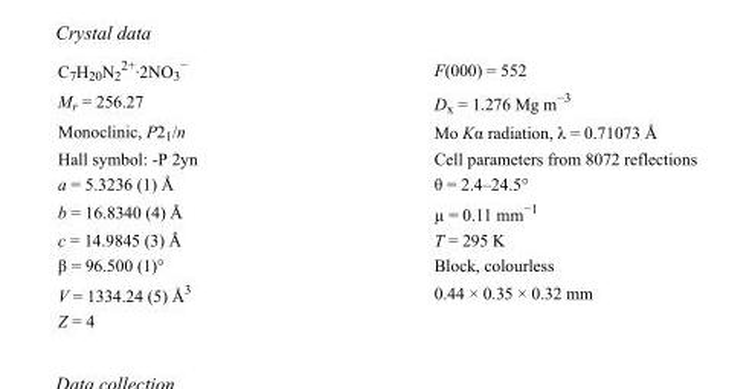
<table><tbody><tr><td>C<sub>7</sub>H<sub>20</sub>N<sub>2</sub> <sup>2+</sup>·2NO<sub>3</sub> <sup>−</sup></td><td>F(000) = 552</td></tr><tr><td>M<sub>r</sub> = 256.27</td><td>D<sub>x</sub> = 1.276 Mg m<sup>−3</sup></td></tr><tr><td>Monoclinic, P2<sub>1</sub>/n</td><td>Mo Kα radiation, λ = 0.71073 Å</td></tr><tr><td>Hall symbol: -P 2yn</td><td>Cell parameters from 8072 reflections</td></tr><tr><td>a = 5.3236 (1) Å</td><td>θ = 2.4–24.5°</td></tr><tr><td>b = 16.8340 (4) Å</td><td>µ = 0.11 mm<sup>−1</sup></td></tr><tr><td>c = 14.9845 (3) Å</td><td>T = 295 K</td></tr><tr><td>β = 96.500 (1)°</td><td>Block, colourless</td></tr><tr><td>V = 1334.24 (5) Å<sup>3</sup></td><td>0.44 × 0.35 × 0.32 mm</td></tr><tr><td>Z = 4</td><td></td></tr></tbody></table>